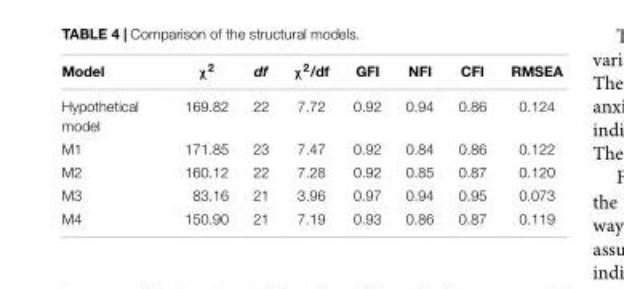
<table><thead><tr><td>Model</td><td>χ<sup>2</sup></td><td>df</td><td>χ<sup>2</sup>/df</td><td>GFI</td><td>NFI</td><td>CFI</td><td>RMSEA</td></tr></thead><tbody><tr><td>Hypothetical model</td><td>169.82</td><td>22</td><td>7.72</td><td>0.92</td><td>0.94</td><td>0.86</td><td>0.124</td></tr><tr><td>M1</td><td>171.85</td><td>23</td><td>7.47</td><td>0.92</td><td>0.84</td><td>0.86</td><td>0.122</td></tr><tr><td>M2</td><td>160.12</td><td>22</td><td>7.28</td><td>0.92</td><td>0.85</td><td>0.87</td><td>0.120</td></tr><tr><td>M3</td><td>83.16</td><td>21</td><td>3.96</td><td>0.97</td><td>0.94</td><td>0.95</td><td>0.073</td></tr><tr><td>M4</td><td>150.90</td><td>21</td><td>7.19</td><td>0.93</td><td>0.86</td><td>0.87</td><td>0.119</td></tr></tbody></table>